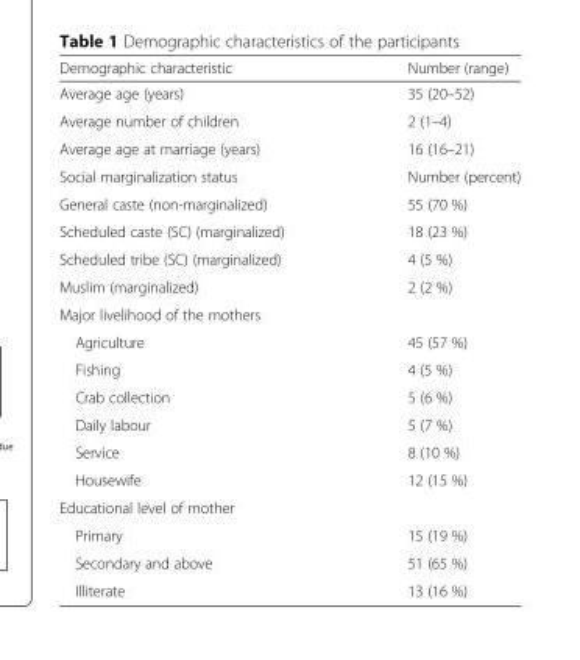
<table><thead><tr><td>Demographic characteristic</td><td>Number (range)</td></tr></thead><tbody><tr><td>Average age (years)</td><td>35 (20–52)</td></tr><tr><td>Average number of children</td><td>2 (1–4)</td></tr><tr><td>Average age at marriage (years)</td><td>16 (16–21)</td></tr><tr><td>Social marginalization status</td><td>Number (percent)</td></tr><tr><td>General caste (non-marginalized)</td><td>55 (70 %)</td></tr><tr><td>Scheduled caste (SC) (marginalized)</td><td>18 (23 %)</td></tr><tr><td>Scheduled tribe (SC) (marginalized)</td><td>4 (5 %)</td></tr><tr><td>Muslim (marginalized)</td><td>2 (2 %)</td></tr><tr><td colspan="2">Major livelihood of the mothers</td></tr><tr><td>Agriculture</td><td>45 (57 %)</td></tr><tr><td>Fishing</td><td>4 (5 %)</td></tr><tr><td>Crab collection</td><td>5 (6 %)</td></tr><tr><td>Daily labour</td><td>5 (7 %)</td></tr><tr><td>Service</td><td>8 (10 %)</td></tr><tr><td>Housewife</td><td>12 (15 %)</td></tr><tr><td colspan="2">Educational level of mother</td></tr><tr><td>Primary</td><td>15 (19 %)</td></tr><tr><td>Secondary and above</td><td>51 (65 %)</td></tr><tr><td>Illiterate</td><td>13 (16 %)</td></tr></tbody></table>